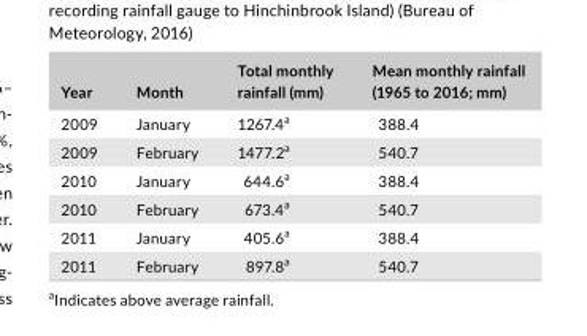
<table><thead><tr><td>Year</td><td>Month</td><td>Total monthly rainfall (mm)</td><td>Mean monthly rainfall (1965 to 2016; mm)</td></tr></thead><tbody><tr><td>2009</td><td>January</td><td>1267.4<sup>a</sup></td><td>388.4</td></tr><tr><td>2009</td><td>February</td><td>1477.2<sup>a</sup></td><td>540.7</td></tr><tr><td>2010</td><td>January</td><td>644.6<sup>a</sup></td><td>388.4</td></tr><tr><td>2010</td><td>February</td><td>673.4<sup>a</sup></td><td>540.7</td></tr><tr><td>2011</td><td>January</td><td>405.6<sup>a</sup></td><td>388.4</td></tr><tr><td>2011</td><td>February</td><td>897.8<sup>a</sup></td><td>540.7</td></tr></tbody></table>